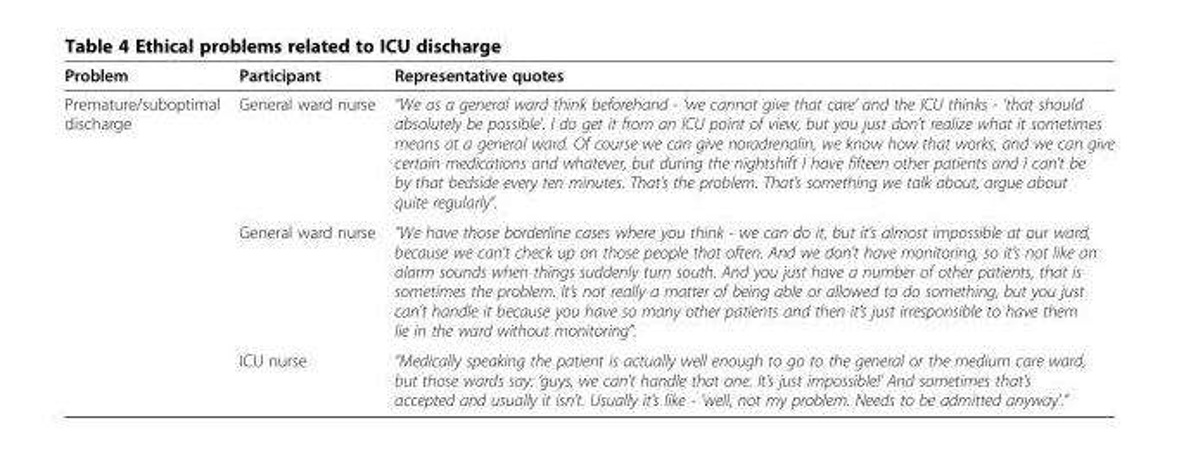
<table><thead><tr><td>Problem</td><td>Participant</td><td>Representative quotes</td></tr></thead><tbody><tr><td rowspan="3">Premature/suboptimal discharge</td><td>General ward nurse</td><td>“We as a general ward think beforehand - ‘we cannot give that care’ and the ICU thinks - ’that should absolutely be possible’. I do get it from an ICU point of view, but you just don’t realize what it sometimes means at a general ward. Of course we can give noradrenalin, we know how that works, and we can give certain medications and whatever, but during the nightshift I have fifteen other patients and I can’t be by that bedside every ten minutes. That’s the problem. That’s something we talk about, argue about quite regularly”.</td></tr><tr><td>General ward nurse</td><td>“We have those borderline cases where you think - we can do it, but it’s almost impossible at our ward, because we can’t check up on those people that often. And we don’t have monitoring, so it’s not like an alarm sounds when things suddenly turn south. And you just have a number of other patients, that is sometimes the problem. It’s not really a matter of being able or allowed to do something, but you just can’t handle it because you have so many other patients and then it’s just irresponsible to have them lie in the ward without monitoring”.</td></tr><tr><td>ICU nurse</td><td>“Medically speaking the patient is actually well enough to go to the general or the medium care ward, but those wards say: ‘guys, we can’t handle that one. It’s just impossible!’ And sometimes that’s accepted and usually it isn’t. Usually it’s like - ’well, not my problem. Needs to be admitted anyway’.”</td></tr></tbody></table>